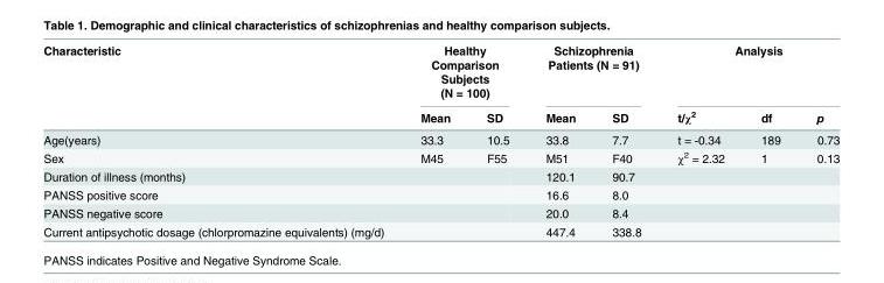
<table><thead><tr><td rowspan="2">Characteristic</td><td colspan="2">Healthy Comparison Subjects (N = 100)</td><td colspan="2">Schizophrenia Patients (N = 91)</td><td colspan="3">Analysis</td></tr><tr><td>Mean</td><td>SD</td><td>Mean</td><td>SD</td><td>t/χ<sup>2</sup></td><td>df</td><td>p</td></tr></thead><tbody><tr><td>Age(years)</td><td>33.3</td><td>10.5</td><td>33.8</td><td>7.7</td><td>t = -0.34</td><td>189</td><td>0.73</td></tr><tr><td>Sex</td><td>M45</td><td>F55</td><td>M51</td><td>F40</td><td>χ<sup>2</sup> = 2.32</td><td>1</td><td>0.13</td></tr><tr><td>Duration of illness (months)</td><td></td><td></td><td>120.1</td><td>90.7</td><td></td><td></td><td></td></tr><tr><td>PANSS positive score</td><td></td><td></td><td>16.6</td><td>8.0</td><td></td><td></td><td></td></tr><tr><td>PANSS negative score</td><td></td><td></td><td>20.0</td><td>8.4</td><td></td><td></td><td></td></tr><tr><td>Current antipsychotic dosage (chlorpromazine equivalents) (mg/d)</td><td></td><td></td><td>447.4</td><td>338.8</td><td></td><td></td><td></td></tr></tbody></table>